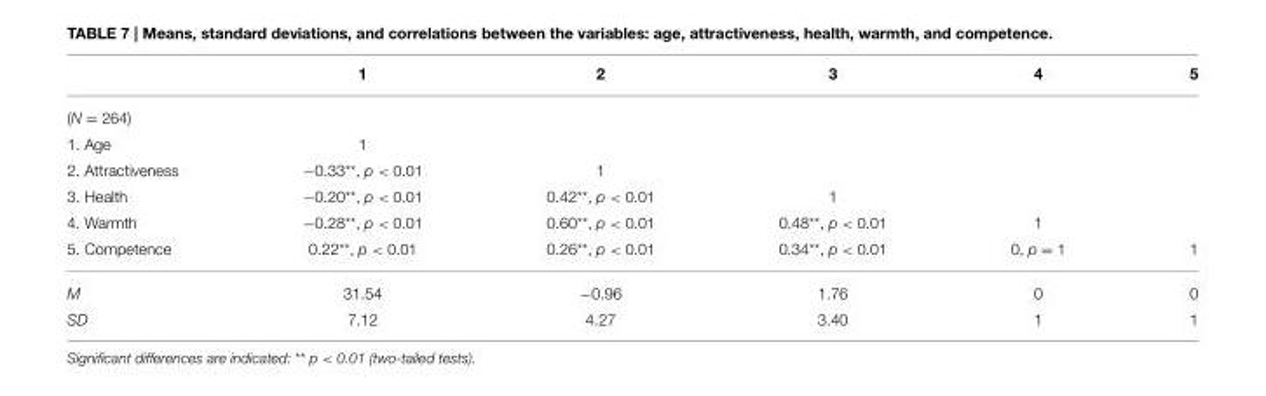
<table><thead><tr><td></td><td>1</td><td>2</td><td>3</td><td>4</td><td>5</td></tr></thead><tbody><tr><td colspan="6">(N = 264)</td></tr><tr><td>1. Age</td><td>1</td><td></td><td></td><td></td><td></td></tr><tr><td>2. Attractiveness</td><td>−0.33**, p &lt; 0.01</td><td>1</td><td></td><td></td><td></td></tr><tr><td>3. Health</td><td>−0.20**, p &lt; 0.01</td><td>0.42**, p &lt; 0.01</td><td>1</td><td></td><td></td></tr><tr><td>4. Warmth</td><td>−0.28**, p &lt; 0.01</td><td>0.60**, p &lt; 0.01</td><td>0.48**, p &lt; 0.01</td><td>1</td><td></td></tr><tr><td>5. Competence</td><td>0.22**, p &lt; 0.01</td><td>0.26**, p &lt; 0.01</td><td>0.34**, p &lt; 0.01</td><td>0, p = 1</td><td>1</td></tr><tr><td>M</td><td>31.54</td><td>−0.96</td><td>1.76</td><td>0</td><td>0</td></tr><tr><td>SD</td><td>7.12</td><td>4.27</td><td>3.40</td><td>1</td><td>1</td></tr></tbody></table>